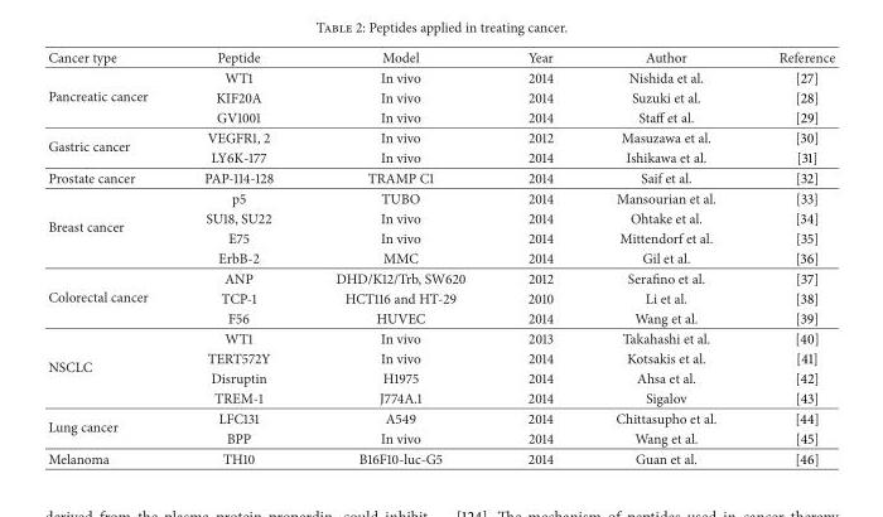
<table><thead><tr><td>Cancer type</td><td>Peptide</td><td>Model</td><td>Year</td><td>Author</td><td>Reference</td></tr></thead><tbody><tr><td rowspan="3">Pancreatic cancer</td><td>WT1</td><td>In vivo</td><td>2014</td><td>Nishida et al.</td><td>[27]</td></tr><tr><td>KIF20A</td><td>In vivo</td><td>2014</td><td>Suzuki et al.</td><td>[28]</td></tr><tr><td>GV1001</td><td>In vivo</td><td>2014</td><td>Staff et al.</td><td>[29]</td></tr><tr><td rowspan="2">Gastric cancer</td><td>VEGFR1, 2</td><td>In vivo</td><td>2012</td><td>Masuzawa et al.</td><td>[30]</td></tr><tr><td>LY6K-177</td><td>In vivo</td><td>2014</td><td>Ishikawa et al.</td><td>[31]</td></tr><tr><td>Prostate cancer</td><td>PAP-114-128</td><td>TRAMP C1</td><td>2014</td><td>Saif et al.</td><td>[32]</td></tr><tr><td rowspan="4">Breast cancer</td><td>p5</td><td>TUBO</td><td>2014</td><td>Mansourian et al.</td><td>[33]</td></tr><tr><td>SU18, SU22</td><td>In vivo</td><td>2014</td><td>Ohtake et al.</td><td>[34]</td></tr><tr><td>E75</td><td>In vivo</td><td>2014</td><td>Mittendorf et al.</td><td>[35]</td></tr><tr><td>ErbB-2</td><td>MMC</td><td>2014</td><td>Gil et al.</td><td>[36]</td></tr><tr><td rowspan="3">Colorectal cancer</td><td>ANP</td><td>DHD/K12/Trb, SW620</td><td>2012</td><td>Serafino et al.</td><td>[37]</td></tr><tr><td>TCP-1</td><td>HCT116 and HT-29</td><td>2010</td><td>Li et al.</td><td>[38]</td></tr><tr><td>F56</td><td>HUVEC</td><td>2014</td><td>Wang et al.</td><td>[39]</td></tr><tr><td rowspan="4">NSCLC</td><td>WT1</td><td>In vivo</td><td>2013</td><td>Takahashi et al.</td><td>[40]</td></tr><tr><td>TERT572Y</td><td>In vivo</td><td>2014</td><td>Kotsakis et al.</td><td>[41]</td></tr><tr><td>Disruptin</td><td>H1975</td><td>2014</td><td>Ahsa et al.</td><td>[42]</td></tr><tr><td>TREM-1</td><td>J774A.1</td><td>2014</td><td>Sigalov</td><td>[43]</td></tr><tr><td rowspan="2">Lung cancer</td><td>LFC131</td><td>A549</td><td>2014</td><td>Chittasupho et al.</td><td>[44]</td></tr><tr><td>BPP</td><td>In vivo</td><td>2014</td><td>Wang et al.</td><td>[45]</td></tr><tr><td>Melanoma</td><td>TH10</td><td>B16F10-luc-G5</td><td>2014</td><td>Guan et al.</td><td>[46]</td></tr></tbody></table>